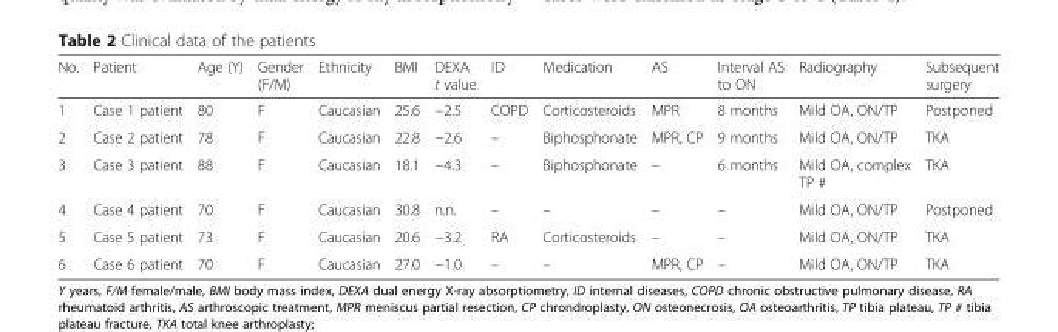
<table><thead><tr><td>No.</td><td>Patient</td><td>Age (Y)</td><td>Gender (F/M)</td><td>Ethnicity</td><td>BMI</td><td>DEXA t value</td><td>ID</td><td>Medication</td><td>AS</td><td>Interval AS to ON</td><td>Radiography</td><td>Subsequent surgery</td></tr></thead><tbody><tr><td>1</td><td>Case 1 patient</td><td>80</td><td>F</td><td>Caucasian</td><td>25.6</td><td>−2.5</td><td>COPD</td><td>Corticosteroids</td><td>MPR</td><td>8 months</td><td>Mild OA, ON/TP</td><td>Postponed</td></tr><tr><td>2</td><td>Case 2 patient</td><td>78</td><td>F</td><td>Caucasian</td><td>22.8</td><td>−2.6</td><td>–</td><td>Biphosphonate</td><td>MPR, CP</td><td>9 months</td><td>Mild OA, ON/TP</td><td>TKA</td></tr><tr><td>3</td><td>Case 3 patient</td><td>88</td><td>F</td><td>Caucasian</td><td>18.1</td><td>−4.3</td><td>–</td><td>Biphosphonate</td><td>–</td><td>6 months</td><td>Mild OA, complex TP #</td><td>TKA</td></tr><tr><td>4</td><td>Case 4 patient</td><td>70</td><td>F</td><td>Caucasian</td><td>30.8</td><td>n.n.</td><td>–</td><td>–</td><td>–</td><td>–</td><td>Mild OA, ON/TP</td><td>Postponed</td></tr><tr><td>5</td><td>Case 5 patient</td><td>73</td><td>F</td><td>Caucasian</td><td>20.6</td><td>−3.2</td><td>RA</td><td>Corticosteroids</td><td>–</td><td>–</td><td>Mild OA, ON/TP</td><td>TKA</td></tr><tr><td>6</td><td>Case 6 patient</td><td>70</td><td>F</td><td>Caucasian</td><td>27.0</td><td>−1.0</td><td>–</td><td>–</td><td>MPR, CP</td><td>–</td><td>Mild OA, ON/TP</td><td>TKA</td></tr></tbody></table>